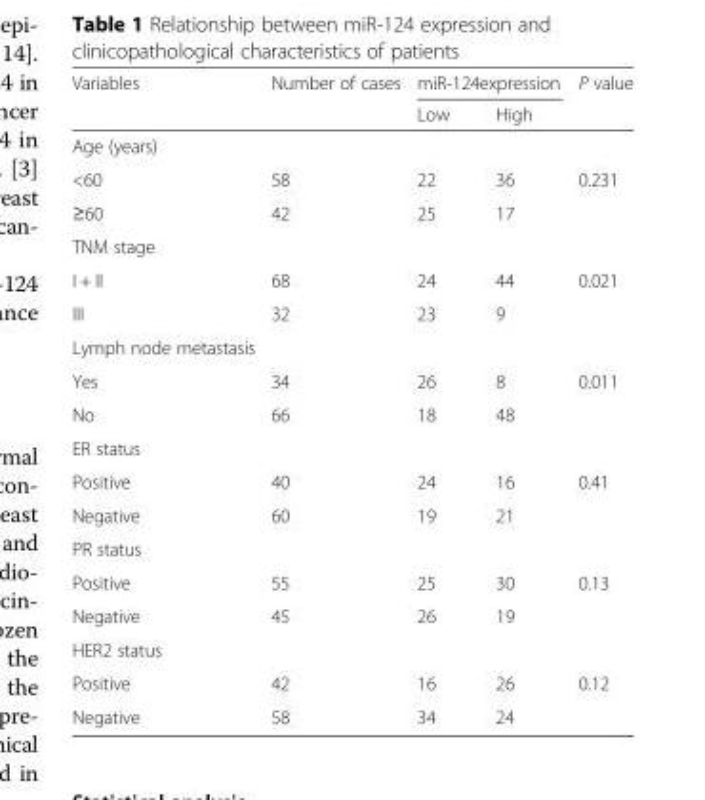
<table><thead><tr><td rowspan="2">Variables</td><td rowspan="2">Number of cases</td><td colspan="2">miR-124expression</td><td rowspan="2">P value</td></tr><tr><td>Low</td><td>High</td></tr></thead><tbody><tr><td colspan="5">Age (years)</td></tr><tr><td>&lt;60</td><td>58</td><td>22</td><td>36</td><td>0.231</td></tr><tr><td>≥60</td><td>42</td><td>25</td><td>17</td><td></td></tr><tr><td colspan="5">TNM stage</td></tr><tr><td>I + II</td><td>68</td><td>24</td><td>44</td><td>0.021</td></tr><tr><td>III</td><td>32</td><td>23</td><td>9</td><td></td></tr><tr><td colspan="5">Lymph node metastasis</td></tr><tr><td>Yes</td><td>34</td><td>26</td><td>8</td><td>0.011</td></tr><tr><td>No</td><td>66</td><td>18</td><td>48</td><td></td></tr><tr><td colspan="5">ER status</td></tr><tr><td>Positive</td><td>40</td><td>24</td><td>16</td><td>0.41</td></tr><tr><td>Negative</td><td>60</td><td>19</td><td>21</td><td></td></tr><tr><td colspan="5">PR status</td></tr><tr><td>Positive</td><td>55</td><td>25</td><td>30</td><td>0.13</td></tr><tr><td>Negative</td><td>45</td><td>26</td><td>19</td><td></td></tr><tr><td colspan="5">HER2 status</td></tr><tr><td>Positive</td><td>42</td><td>16</td><td>26</td><td>0.12</td></tr><tr><td>Negative</td><td>58</td><td>34</td><td>24</td><td></td></tr></tbody></table>